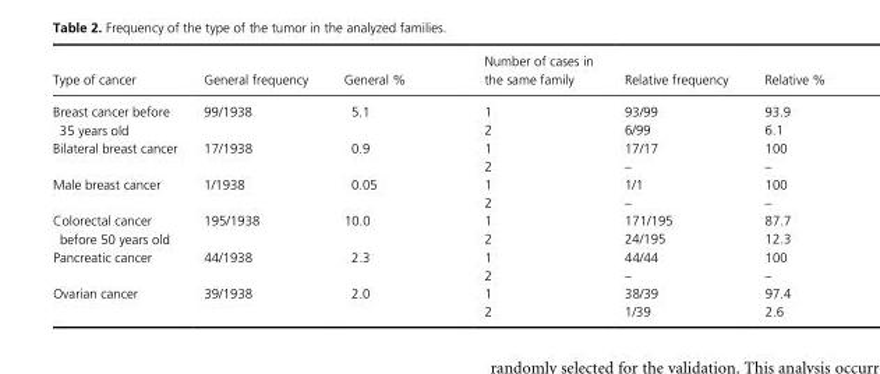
<table><thead><tr><td>Type of cancer</td><td>General frequency</td><td>General %</td><td>Number of cases in the same family</td><td>Relative frequency</td><td>Relative %</td></tr></thead><tbody><tr><td rowspan="2">Breast cancer before 35 years old</td><td rowspan="2">99/1938</td><td rowspan="2">5.1</td><td>1</td><td>93/99</td><td>93.9</td></tr><tr><td>2</td><td>6/99</td><td>6.1</td></tr><tr><td rowspan="2">Bilateral breast cancer</td><td rowspan="2">17/1938</td><td rowspan="2">0.9</td><td>1</td><td>17/17</td><td>100</td></tr><tr><td>2</td><td>–</td><td>–</td></tr><tr><td rowspan="2">Male breast cancer</td><td rowspan="2">1/1938</td><td rowspan="2">0.05</td><td>1</td><td>1/1</td><td>100</td></tr><tr><td>2</td><td>–</td><td>–</td></tr><tr><td rowspan="2">Colorectal cancer before 50 years old</td><td rowspan="2">195/1938</td><td rowspan="2">10.0</td><td>1</td><td>171/195</td><td>87.7</td></tr><tr><td>2</td><td>24/195</td><td>12.3</td></tr><tr><td rowspan="2">Pancreatic cancer</td><td rowspan="2">44/1938</td><td rowspan="2">2.3</td><td>1</td><td>44/44</td><td>100</td></tr><tr><td>2</td><td>–</td><td>–</td></tr><tr><td rowspan="2">Ovarian cancer</td><td rowspan="2">39/1938</td><td rowspan="2">2.0</td><td>1</td><td>38/39</td><td>97.4</td></tr><tr><td>2</td><td>1/39</td><td>2.6</td></tr></tbody></table>